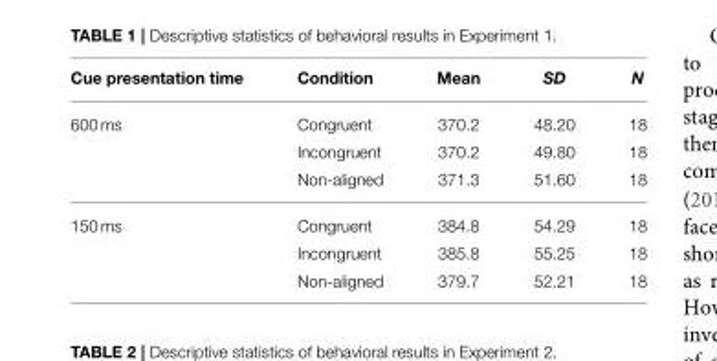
<table><thead><tr><td>Cue presentation time</td><td>Condition</td><td>Mean</td><td>SD</td><td>N</td></tr></thead><tbody><tr><td rowspan="3">600 ms</td><td>Congruent</td><td>370.2</td><td>48.20</td><td>18</td></tr><tr><td>Incongruent</td><td>370.2</td><td>49.80</td><td>18</td></tr><tr><td>Non-aligned</td><td>371.3</td><td>51.60</td><td>18</td></tr><tr><td rowspan="3">150 ms</td><td>Congruent</td><td>384.8</td><td>54.29</td><td>18</td></tr><tr><td>Incongruent</td><td>385.8</td><td>55.25</td><td>18</td></tr><tr><td>Non-aligned</td><td>379.7</td><td>52.21</td><td>18</td></tr></tbody></table>